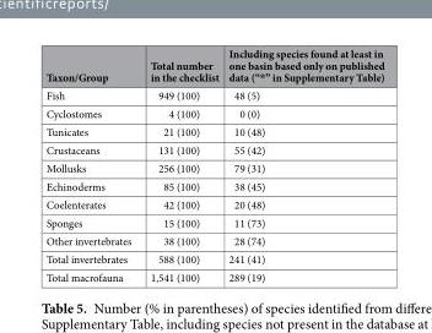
<table><thead><tr><td>Taxon/Group</td><td>Total number in the checklist</td><td>Including species found at least in one basin based only on published data (“*” in Supplementary Table)</td></tr></thead><tbody><tr><td>Fish</td><td>949 (100)</td><td>48 (5)</td></tr><tr><td>Cyclostomes</td><td>4 (100)</td><td>0 (0)</td></tr><tr><td>Tunicates</td><td>21 (100)</td><td>10 (48)</td></tr><tr><td>Crustaceans</td><td>131 (100)</td><td>55 (42)</td></tr><tr><td>Mollusks</td><td>256 (100)</td><td>79 (31)</td></tr><tr><td>Echinoderms</td><td>85 (100)</td><td>38 (45)</td></tr><tr><td>Coelenterates</td><td>42 (100)</td><td>20 (48)</td></tr><tr><td>Sponges</td><td>15 (100)</td><td>11 (73)</td></tr><tr><td>Other invertebrates</td><td>38 (100)</td><td>28 (74)</td></tr><tr><td>Total invertebrates</td><td>588 (100)</td><td>241 (41)</td></tr><tr><td>Total macrofauna</td><td>1,541 (100)</td><td>289 (19)</td></tr></tbody></table>